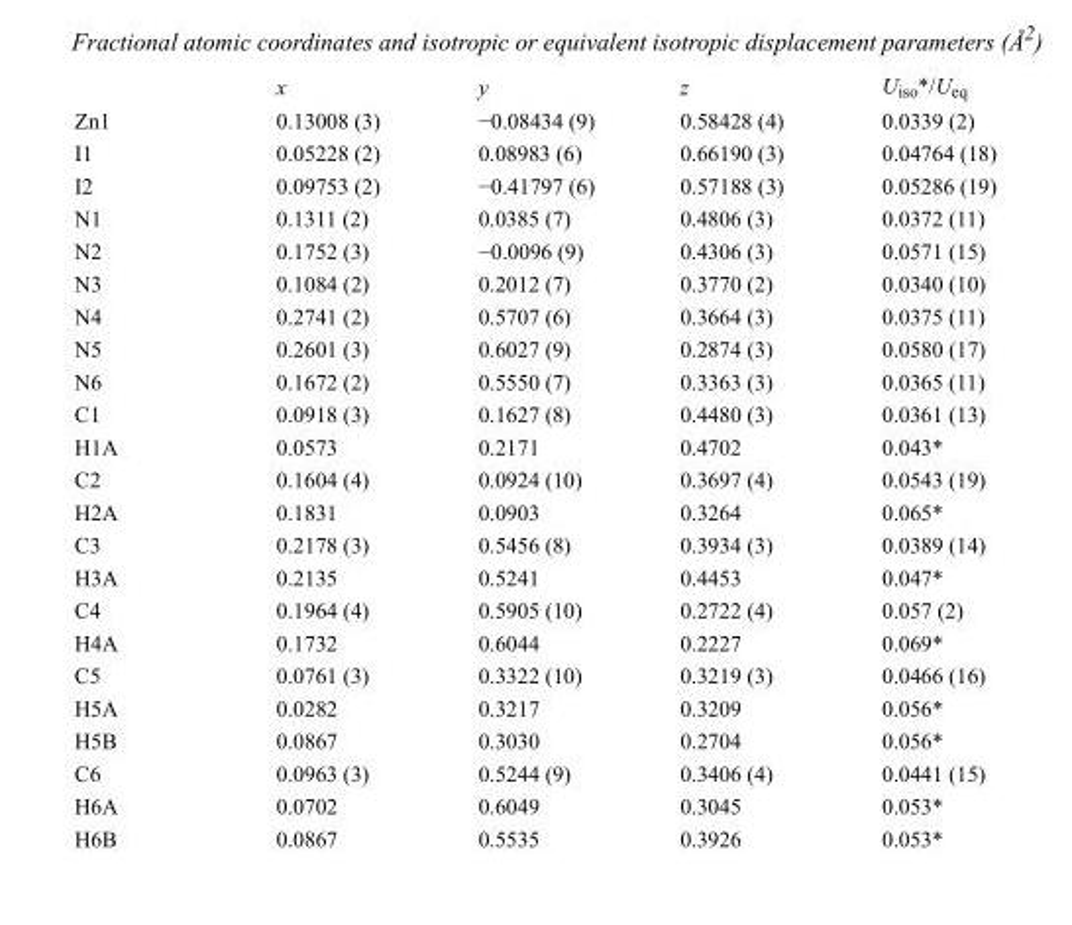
<table><thead><tr><td></td><td>x</td><td>y</td><td>z</td><td>U<sub>iso</sub>*/U<sub>eq</sub></td></tr></thead><tbody><tr><td>Zn1</td><td>0.13008 (3)</td><td>−0.08434 (9)</td><td>0.58428 (4)</td><td>0.0339 (2)</td></tr><tr><td>I1</td><td>0.05228 (2)</td><td>0.08983 (6)</td><td>0.66190 (3)</td><td>0.04764 (18)</td></tr><tr><td>I2</td><td>0.09753 (2)</td><td>−0.41797 (6)</td><td>0.57188 (3)</td><td>0.05286 (19)</td></tr><tr><td>N1</td><td>0.1311 (2)</td><td>0.0385 (7)</td><td>0.4806 (3)</td><td>0.0372 (11)</td></tr><tr><td>N2</td><td>0.1752 (3)</td><td>−0.0096 (9)</td><td>0.4306 (3)</td><td>0.0571 (15)</td></tr><tr><td>N3</td><td>0.1084 (2)</td><td>0.2012 (7)</td><td>0.3770 (2)</td><td>0.0340 (10)</td></tr><tr><td>N4</td><td>0.2741 (2)</td><td>0.5707 (6)</td><td>0.3664 (3)</td><td>0.0375 (11)</td></tr><tr><td>N5</td><td>0.2601 (3)</td><td>0.6027 (9)</td><td>0.2874 (3)</td><td>0.0580 (17)</td></tr><tr><td>N6</td><td>0.1672 (2)</td><td>0.5550 (7)</td><td>0.3363 (3)</td><td>0.0365 (11)</td></tr><tr><td>C1</td><td>0.0918 (3)</td><td>0.1627 (8)</td><td>0.4480 (3)</td><td>0.0361 (13)</td></tr><tr><td>H1A</td><td>0.0573</td><td>0.2171</td><td>0.4702</td><td>0.043*</td></tr><tr><td>C2</td><td>0.1604 (4)</td><td>0.0924 (10)</td><td>0.3697 (4)</td><td>0.0543 (19)</td></tr><tr><td>H2A</td><td>0.1831</td><td>0.0903</td><td>0.3264</td><td>0.065*</td></tr><tr><td>C3</td><td>0.2178 (3)</td><td>0.5456 (8)</td><td>0.3934 (3)</td><td>0.0389 (14)</td></tr><tr><td>H3A</td><td>0.2135</td><td>0.5241</td><td>0.4453</td><td>0.047*</td></tr><tr><td>C4</td><td>0.1964 (4)</td><td>0.5905 (10)</td><td>0.2722 (4)</td><td>0.057 (2)</td></tr><tr><td>H4A</td><td>0.1732</td><td>0.6044</td><td>0.2227</td><td>0.069*</td></tr><tr><td>C5</td><td>0.0761 (3)</td><td>0.3322 (10)</td><td>0.3219 (3)</td><td>0.0466 (16)</td></tr><tr><td>H5A</td><td>0.0282</td><td>0.3217</td><td>0.3209</td><td>0.056*</td></tr><tr><td>H5B</td><td>0.0867</td><td>0.3030</td><td>0.2704</td><td>0.056*</td></tr><tr><td>C6</td><td>0.0963 (3)</td><td>0.5244 (9)</td><td>0.3406 (4)</td><td>0.0441 (15)</td></tr><tr><td>H6A</td><td>0.0702</td><td>0.6049</td><td>0.3045</td><td>0.053*</td></tr><tr><td>H6B</td><td>0.0867</td><td>0.5535</td><td>0.3926</td><td>0.053*</td></tr></tbody></table>